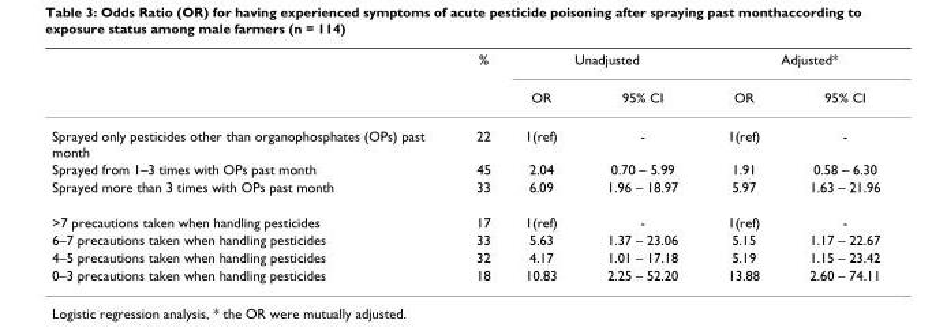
<table><thead><tr><td rowspan="2"></td><td rowspan="2">%</td><td colspan="2">Unadjusted</td><td colspan="2">Adjusted*</td></tr><tr><td>OR</td><td>95% CI</td><td>OR</td><td>95% CI</td></tr></thead><tbody><tr><td>Sprayed only pesticides other than organophosphates (OPs) past month</td><td>22</td><td>1(ref)</td><td>-</td><td>1(ref)</td><td>-</td></tr><tr><td>Sprayed from 1–3 times with OPs past month</td><td>45</td><td>2.04</td><td>0.70 – 5.99</td><td>1.91</td><td>0.58 – 6.30</td></tr><tr><td>Sprayed more than 3 times with OPs past month</td><td>33</td><td>6.09</td><td>1.96 – 18.97</td><td>5.97</td><td>1.63 – 21.96</td></tr><tr><td>&gt;7 precautions taken when handling pesticides</td><td>17</td><td>1(ref)</td><td>-</td><td>1(ref)</td><td>-</td></tr><tr><td>6–7 precautions taken when handling pesticides</td><td>33</td><td>5.63</td><td>1.37 – 23.06</td><td>5.15</td><td>1.17 – 22.67</td></tr><tr><td>4–5 precautions taken when handling pesticides</td><td>32</td><td>4.17</td><td>1.01 – 17.18</td><td>5.19</td><td>1.15 – 23.42</td></tr><tr><td>0–3 precautions taken when handling pesticides</td><td>18</td><td>10.83</td><td>2.25 – 52.20</td><td>13.88</td><td>2.60 – 74.11</td></tr></tbody></table>